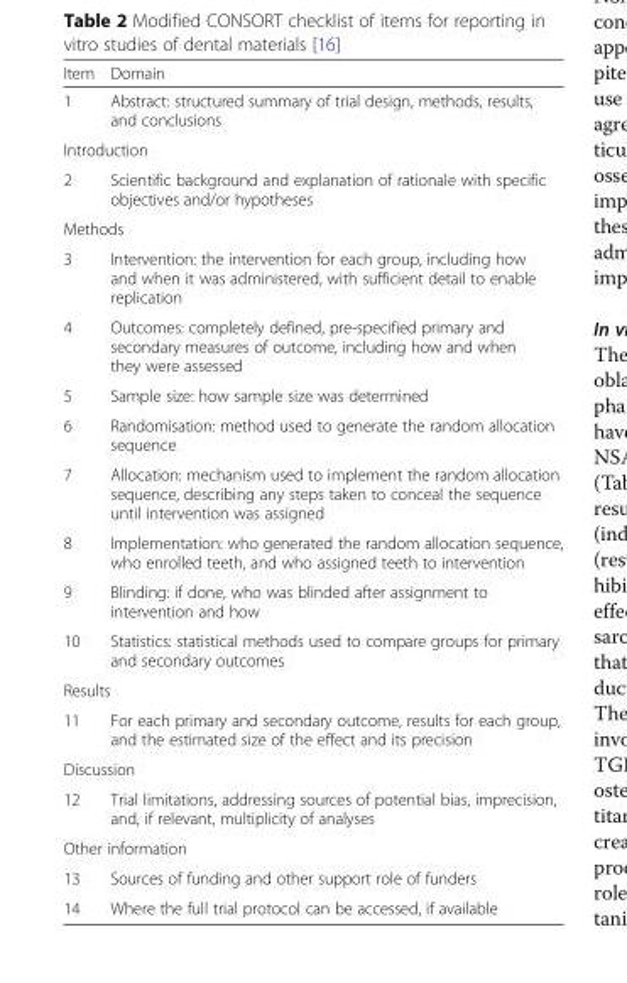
<table><thead><tr><td>Item</td><td>Domain</td></tr></thead><tbody><tr><td>1</td><td>Abstract: structured summary of trial design, methods, results, and conclusions</td></tr><tr><td colspan="2">Introduction</td></tr><tr><td>2</td><td>Scientific background and explanation of rationale with specific objectives and/or hypotheses</td></tr><tr><td colspan="2">Methods</td></tr><tr><td>3</td><td>Intervention: the intervention for each group, including how and when it was administered, with sufficient detail to enable replication</td></tr><tr><td>4</td><td>Outcomes: completely defined, pre-specified primary and secondary measures of outcome, including how and when they were assessed</td></tr><tr><td>5</td><td>Sample size: how sample size was determined</td></tr><tr><td>6</td><td>Randomisation: method used to generate the random allocation sequence</td></tr><tr><td>7</td><td>Allocation: mechanism used to implement the random allocation sequence, describing any steps taken to conceal the sequence until intervention was assigned</td></tr><tr><td>8</td><td>Implementation: who generated the random allocation sequence, who enrolled teeth, and who assigned teeth to intervention</td></tr><tr><td>9</td><td>Blinding: if done, who was blinded after assignment to intervention and how</td></tr><tr><td>10</td><td>Statistics: statistical methods used to compare groups for primary and secondary outcomes</td></tr><tr><td colspan="2">Results</td></tr><tr><td>11</td><td>For each primary and secondary outcome, results for each group, and the estimated size of the effect and its precision</td></tr><tr><td colspan="2">Discussion</td></tr><tr><td>12</td><td>Trial limitations, addressing sources of potential bias, imprecision, and, if relevant, multiplicity of analyses</td></tr><tr><td colspan="2">Other information</td></tr><tr><td>13</td><td>Sources of funding and other support role of funders</td></tr><tr><td>14</td><td>Where the full trial protocol can be accessed, if available</td></tr></tbody></table>